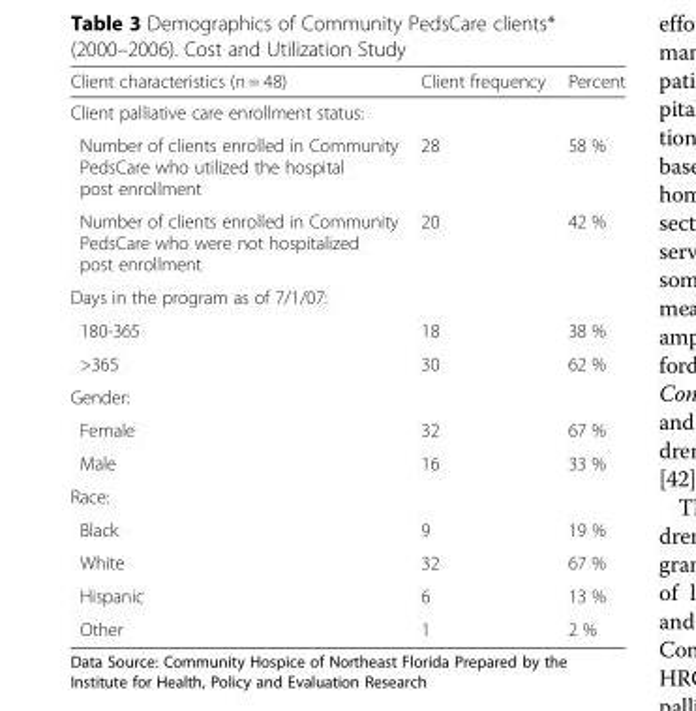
<table><thead><tr><td>Client characteristics (n = 48)</td><td>Client frequency</td><td>Percent</td></tr></thead><tbody><tr><td colspan="3">Client palliative care enrollment status:</td></tr><tr><td>Number of clients enrolled in Community PedsCare who utilized the hospital post enrollment</td><td>28</td><td>58 %</td></tr><tr><td>Number of clients enrolled in Community PedsCare who were not hospitalized post enrollment</td><td>20</td><td>42 %</td></tr><tr><td colspan="3">Days in the program as of 7/1/07:</td></tr><tr><td>180-365</td><td>18</td><td>38 %</td></tr><tr><td>&gt;365</td><td>30</td><td>62 %</td></tr><tr><td colspan="3">Gender:</td></tr><tr><td>Female</td><td>32</td><td>67 %</td></tr><tr><td>Male</td><td>16</td><td>33 %</td></tr><tr><td colspan="3">Race:</td></tr><tr><td>Black</td><td>9</td><td>19 %</td></tr><tr><td>White</td><td>32</td><td>67 %</td></tr><tr><td>Hispanic</td><td>6</td><td>13 %</td></tr><tr><td>Other</td><td>1</td><td>2 %</td></tr></tbody></table>